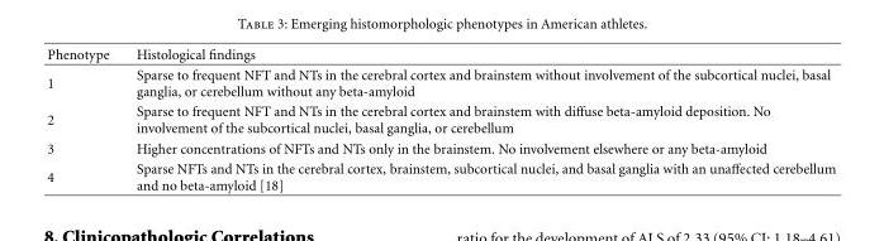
<table><thead><tr><td>Phenotype</td><td>Histological findings</td></tr></thead><tbody><tr><td>1</td><td>Sparse to frequent NFT and NTs in the cerebral cortex and brainstem without involvement of the subcortical nuclei, basal ganglia, or cerebellum without any beta-amyloid</td></tr><tr><td>2</td><td>Sparse to frequent NFT and NTs in the cerebral cortex and brainstem with diffuse beta-amyloid deposition. No involvement of the subcortical nuclei, basal ganglia, or cerebellum</td></tr><tr><td>3</td><td>Higher concentrations of NFTs and NTs only in the brainstem. No involvement elsewhere or any beta-amyloid</td></tr><tr><td>4</td><td>Sparse NFTs and NTs in the cerebral cortex, brainstem, subcortical nuclei, and basal ganglia with an unaffected cerebellum and no beta-amyloid [18]</td></tr></tbody></table>